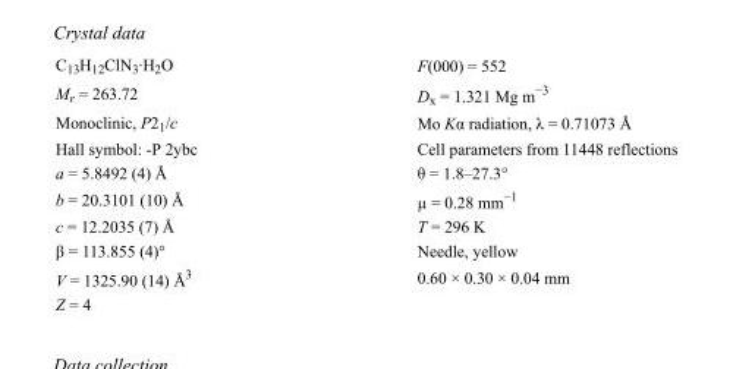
<table><tbody><tr><td>C<sub>13</sub>H<sub>12</sub>ClN<sub>3</sub>·H<sub>2</sub>O</td><td>F(000) = 552</td></tr><tr><td>M<sub>r</sub> = 263.72</td><td>D<sub>x</sub> = 1.321 Mg m<sup>−3</sup></td></tr><tr><td>Monoclinic, P2<sub>1</sub>/c</td><td>Mo Kα radiation, λ = 0.71073 Å</td></tr><tr><td>Hall symbol: -P 2ybc</td><td>Cell parameters from 11448 reflections</td></tr><tr><td>a = 5.8492 (4) Å</td><td>θ = 1.8–27.3°</td></tr><tr><td>b = 20.3101 (10) Å</td><td>µ = 0.28 mm<sup>−1</sup></td></tr><tr><td>c = 12.2035 (7) Å</td><td>T = 296 K</td></tr><tr><td>β = 113.855 (4)°</td><td>Needle, yellow</td></tr><tr><td>V = 1325.90 (14) Å<sup>3</sup></td><td>0.60 × 0.30 × 0.04 mm</td></tr><tr><td>Z = 4</td><td></td></tr></tbody></table>